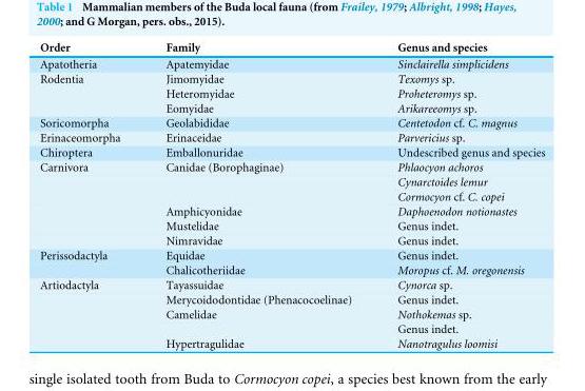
<table><thead><tr><td>Order</td><td>Family</td><td>Genus and species</td></tr></thead><tbody><tr><td>Apatotheria</td><td>Apatemyidae</td><td>Sinclairella simplicidens</td></tr><tr><td rowspan="3">Rodentia</td><td>Jimomyidae</td><td>Texomys sp.</td></tr><tr><td>Heteromyidae</td><td>Proheteromys sp.</td></tr><tr><td>Eomyidae</td><td>Arikareeomys sp.</td></tr><tr><td>Soricomorpha</td><td>Geolabididae</td><td>Centetodon cf. C. magnus</td></tr><tr><td>Erinaceomorpha</td><td>Erinaceidae</td><td>Parvericius sp.</td></tr><tr><td>Chiroptera</td><td>Emballonuridae</td><td>Undescribed genus and species</td></tr><tr><td rowspan="6">Carnivora</td><td>Canidae (Borophaginae)</td><td>Phlaocyon achoros</td></tr><tr><td></td><td>Cynarctoides lemur</td></tr><tr><td></td><td>Cormocyon cf. C. copei</td></tr><tr><td>Amphicyonidae</td><td>Daphoenodon notionastes</td></tr><tr><td>Mustelidae</td><td>Genus indet.</td></tr><tr><td>Nimravidae</td><td>Genus indet.</td></tr><tr><td rowspan="2">Perissodactyla</td><td>Equidae</td><td>Genus indet.</td></tr><tr><td>Chalicotheriidae</td><td>Moropus cf. M. oregonensis</td></tr><tr><td rowspan="5">Artiodactyla</td><td>Tayassuidae</td><td>Cynorca sp.</td></tr><tr><td>Merycoidodontidae (Phenacocoelinae)</td><td>Genus indet.</td></tr><tr><td>Camelidae</td><td>Nothokemas sp.</td></tr><tr><td></td><td>Genus indet.</td></tr><tr><td>Hypertragulidae</td><td>Nanotragulus loomisi</td></tr></tbody></table>